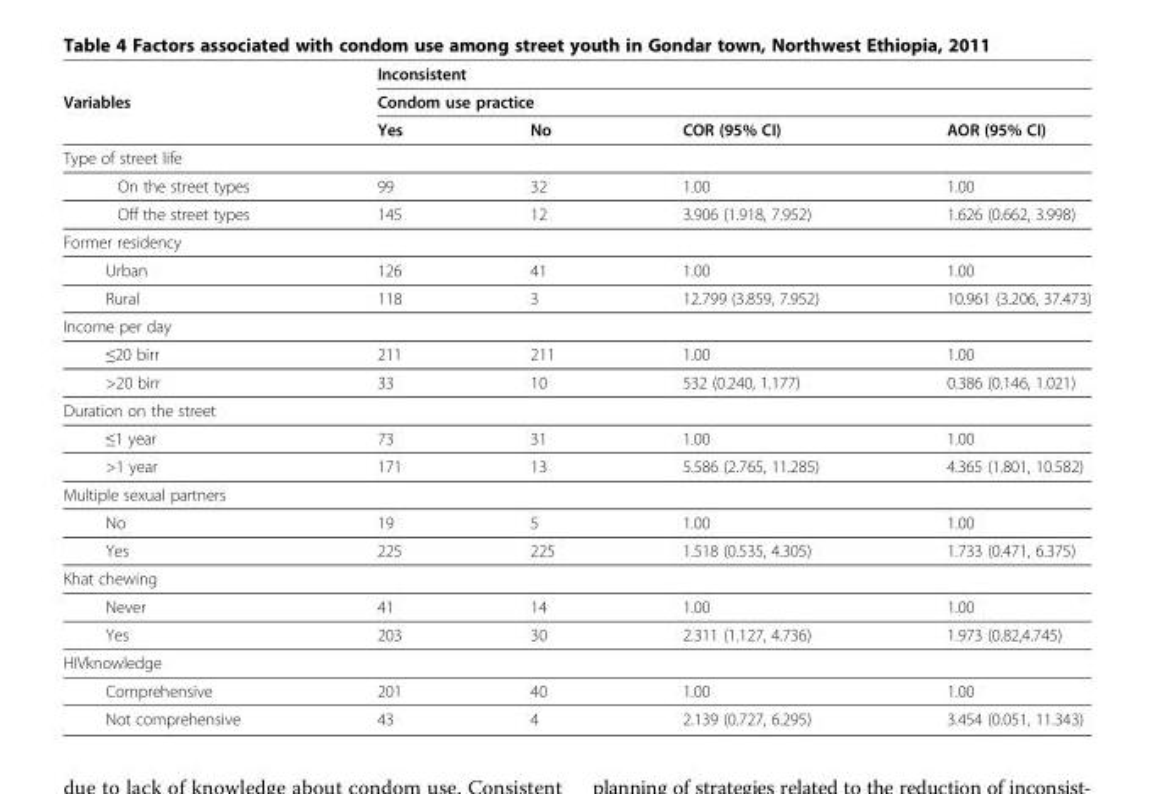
<table><thead><tr><td rowspan="3">Variables</td><td rowspan="2" colspan="4">Inconsistent Condom use practice</td></tr><tr></tr><tr><td>Yes</td><td>No</td><td>COR (95% CI)</td><td>AOR (95% CI)</td></tr></thead><tbody><tr><td colspan="5">Type of street life</td></tr><tr><td>On the street types</td><td>99</td><td>32</td><td>1.00</td><td>1.00</td></tr><tr><td>Off the street types</td><td>145</td><td>12</td><td>3.906 (1.918, 7.952)</td><td>1.626 (0.662, 3.998)</td></tr><tr><td colspan="5">Former residency</td></tr><tr><td>Urban</td><td>126</td><td>41</td><td>1.00</td><td>1.00</td></tr><tr><td>Rural</td><td>118</td><td>3</td><td>12.799 (3.859, 7.952)</td><td>10.961 (3.206, 37.473)</td></tr><tr><td colspan="5">Income per day</td></tr><tr><td>≤20 birr</td><td>211</td><td>211</td><td>1.00</td><td>1.00</td></tr><tr><td>&gt;20 birr</td><td>33</td><td>10</td><td>532 (0.240, 1.177)</td><td>0.386 (0.146, 1.021)</td></tr><tr><td colspan="5">Duration on the street</td></tr><tr><td>≤1 year</td><td>73</td><td>31</td><td>1.00</td><td>1.00</td></tr><tr><td>&gt;1 year</td><td>171</td><td>13</td><td>5.586 (2.765, 11.285)</td><td>4.365 (1.801, 10.582)</td></tr><tr><td colspan="5">Multiple sexual partners</td></tr><tr><td>No</td><td>19</td><td>5</td><td>1.00</td><td>1.00</td></tr><tr><td>Yes</td><td>225</td><td>225</td><td>1.518 (0.535, 4.305)</td><td>1.733 (0.471, 6.375)</td></tr><tr><td colspan="5">Khat chewing</td></tr><tr><td>Never</td><td>41</td><td>14</td><td>1.00</td><td>1.00</td></tr><tr><td>Yes</td><td>203</td><td>30</td><td>2.311 (1.127, 4.736)</td><td>1.973 (0.82,4.745)</td></tr><tr><td colspan="5">HIVknowledge</td></tr><tr><td>Comprehensive</td><td>201</td><td>40</td><td>1.00</td><td>1.00</td></tr><tr><td>Not comprehensive</td><td>43</td><td>4</td><td>2.139 (0.727, 6.295)</td><td>3.454 (0.051, 11.343)</td></tr></tbody></table>